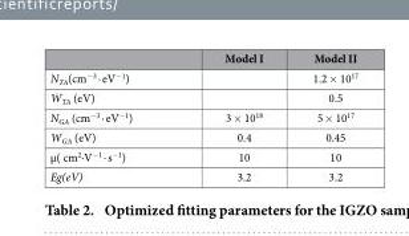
<table><thead><tr><td></td><td>Model I</td><td>Model II</td></tr></thead><tbody><tr><td>N<sub>TA</sub>(cm<sup>−3</sup> · eV<sup>−1</sup>)</td><td></td><td>1.2 × 10<sup>17</sup></td></tr><tr><td>W<sub>TA</sub> (eV)</td><td></td><td>0.5</td></tr><tr><td>N<sub>GA</sub> (cm<sup>−3</sup> · eV<sup>−1</sup>)</td><td>3 × 10<sup>18</sup></td><td>5 × 10<sup>17</sup></td></tr><tr><td>W<sub>GA</sub> (eV)</td><td>0.4</td><td>0.45</td></tr><tr><td>μ( cm<sup>2</sup>·V<sup>−1</sup> · s<sup>−1</sup>)</td><td>10</td><td>10</td></tr><tr><td>Eg(eV)</td><td>3.2</td><td>3.2</td></tr></tbody></table>